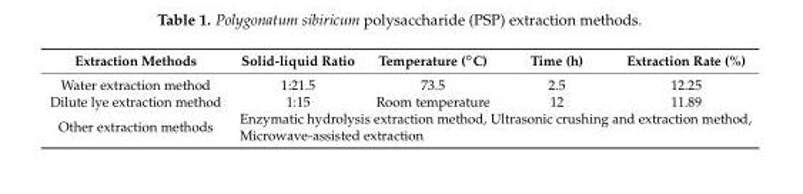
<table><thead><tr><td>Extraction Methods</td><td>Solid-liquid Ratio</td><td>Temperature (◦C)</td><td>Time (h)</td><td>Extraction Rate (%)</td></tr></thead><tbody><tr><td>Water extraction method</td><td>1:21.5</td><td>73.5</td><td>2.5</td><td>12.25</td></tr><tr><td>Dilute lye extraction method</td><td>1:15</td><td>Room temperature</td><td>12</td><td>11.89</td></tr><tr><td>Other extraction methods</td><td colspan="4">Enzymatic hydrolysis extraction method, Ultrasonic crushing and extraction method, Microwave-assisted extraction</td></tr></tbody></table>